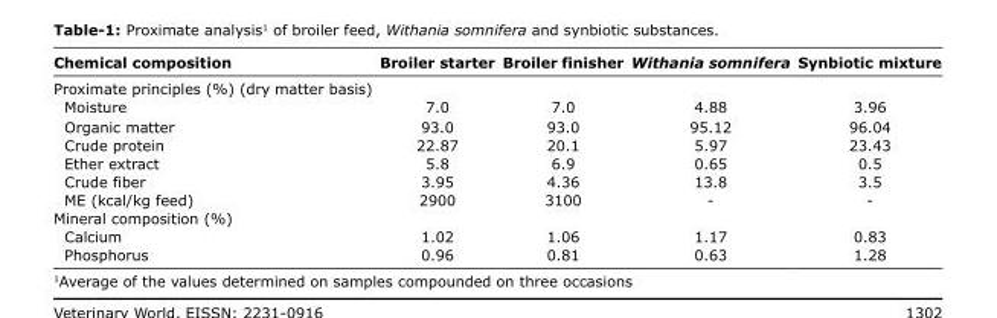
<table><thead><tr><td>Chemical composition</td><td>Broiler starter</td><td>Broiler finisher</td><td>Withania somnifera</td><td>Synbiotic mixture</td></tr></thead><tbody><tr><td colspan="5">Proximate principles (%) (dry matter basis)</td></tr><tr><td>Moisture</td><td>7.0</td><td>7.0</td><td>4.88</td><td>3.96</td></tr><tr><td>Organic matter</td><td>93.0</td><td>93.0</td><td>95.12</td><td>96.04</td></tr><tr><td>Crude protein</td><td>22.87</td><td>20.1</td><td>5.97</td><td>23.43</td></tr><tr><td>Ether extract</td><td>5.8</td><td>6.9</td><td>0.65</td><td>0.5</td></tr><tr><td>Crude fiber</td><td>3.95</td><td>4.36</td><td>13.8</td><td>3.5</td></tr><tr><td>ME (kcal/kg feed)</td><td>2900</td><td>3100</td><td>-</td><td>-</td></tr><tr><td colspan="5">Mineral composition (%)</td></tr><tr><td>Calcium</td><td>1.02</td><td>1.06</td><td>1.17</td><td>0.83</td></tr><tr><td>Phosphorus</td><td>0.96</td><td>0.81</td><td>0.63</td><td>1.28</td></tr></tbody></table>